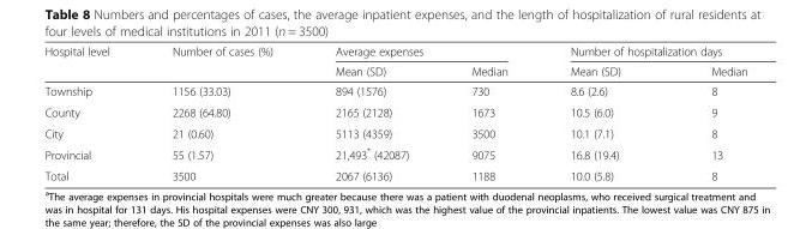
<table><thead><tr><td rowspan="2">Hospital level</td><td rowspan="2">Number of cases (%)</td><td colspan="2">Average expenses</td><td colspan="2">Number of hospitalization days</td></tr><tr><td>Mean (SD)</td><td>Median</td><td>Mean (SD)</td><td>Median</td></tr></thead><tbody><tr><td>Township</td><td>1156 (33.03)</td><td>894 (1576)</td><td>730</td><td>8.6 (2.6)</td><td>8</td></tr><tr><td>County</td><td>2268 (64.80)</td><td>2165 (2128)</td><td>1673</td><td>10.5 (6.0)</td><td>9</td></tr><tr><td>City</td><td>21 (0.60)</td><td>5113 (4359)</td><td>3500</td><td>10.1 (7.1)</td><td>8</td></tr><tr><td>Provincial</td><td>55 (1.57)</td><td>21,493* (42087)</td><td>9075</td><td>16.8 (19.4)</td><td>13</td></tr><tr><td>Total</td><td>3500</td><td>2067 (6136)</td><td>1188</td><td>10.0 (5.8)</td><td>8</td></tr></tbody></table>